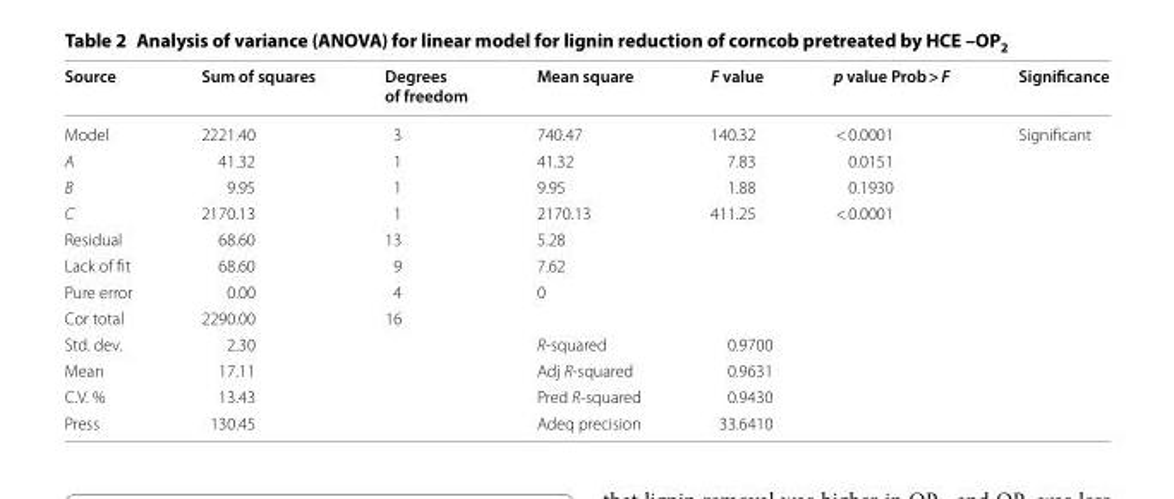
<table><thead><tr><td>Source</td><td>Sum of squares</td><td>Degrees of freedom</td><td>Mean square</td><td>F value</td><td>p value Prob &gt; F</td><td>Significance</td></tr></thead><tbody><tr><td>Model</td><td>2221.40</td><td>3</td><td>740.47</td><td>140.32</td><td>&lt; 0.0001</td><td>Significant</td></tr><tr><td>A</td><td>41.32</td><td>1</td><td>41.32</td><td>7.83</td><td>0.0151</td><td></td></tr><tr><td>B</td><td>9.95</td><td>1</td><td>9.95</td><td>1.88</td><td>0.1930</td><td></td></tr><tr><td>C</td><td>2170.13</td><td>1</td><td>2170.13</td><td>411.25</td><td>&lt; 0.0001</td><td></td></tr><tr><td>Residual</td><td>68.60</td><td>13</td><td>5.28</td><td></td><td></td><td></td></tr><tr><td>Lack of fit</td><td>68.60</td><td>9</td><td>7.62</td><td></td><td></td><td></td></tr><tr><td>Pure error</td><td>0.00</td><td>4</td><td>0</td><td></td><td></td><td></td></tr><tr><td>Cor total</td><td>2290.00</td><td>16</td><td></td><td></td><td></td><td></td></tr><tr><td>Std. dev.</td><td>2.30</td><td></td><td>R-squared</td><td>0.9700</td><td></td><td></td></tr><tr><td>Mean</td><td>17.11</td><td></td><td>Adj R-squared</td><td>0.9631</td><td></td><td></td></tr><tr><td>C.V. %</td><td>13.43</td><td></td><td>Pred R-squared</td><td>0.9430</td><td></td><td></td></tr><tr><td>Press</td><td>130.45</td><td></td><td>Adeq precision</td><td>33.6410</td><td></td><td></td></tr></tbody></table>